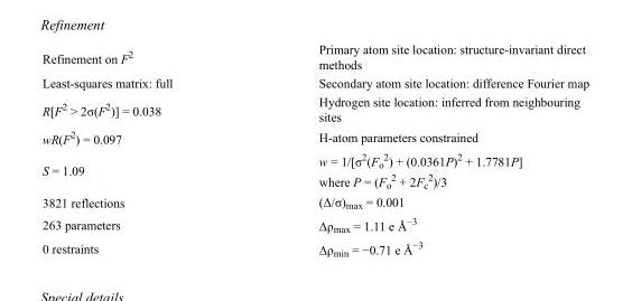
<table><tbody><tr><td>Refinement on F<sup>2</sup></td><td>Primary atom site location: structure-invariant direct methods</td></tr><tr><td>Least-squares matrix: full</td><td>Secondary atom site location: difference Fourier map</td></tr><tr><td>R[F<sup>2</sup> &gt; 2σ(F<sup>2</sup>)] = 0.038</td><td>Hydrogen site location: inferred from neighbouring sites</td></tr><tr><td>wR(F<sup>2</sup>) = 0.097</td><td>H-atom parameters constrained</td></tr><tr><td>S = 1.09</td><td>w = 1/[σ<sup>2</sup>(F<sub>o</sub> <sup>2</sup>) + (0.0361P)<sup>2</sup> + 1.7781P] where P = (F<sub>o</sub> <sup>2</sup> + 2F<sub>c</sub> <sup>2</sup>)/3</td></tr><tr><td>3821 reflections</td><td>(Δ/σ)<sub>max</sub> = 0.001</td></tr><tr><td>263 parameters</td><td>Δρ<sub>max</sub> = 1.11 e Å<sup>−3</sup></td></tr><tr><td>0 restraints</td><td>Δρ<sub>min</sub> = −0.71 e Å<sup>−3</sup></td></tr></tbody></table>